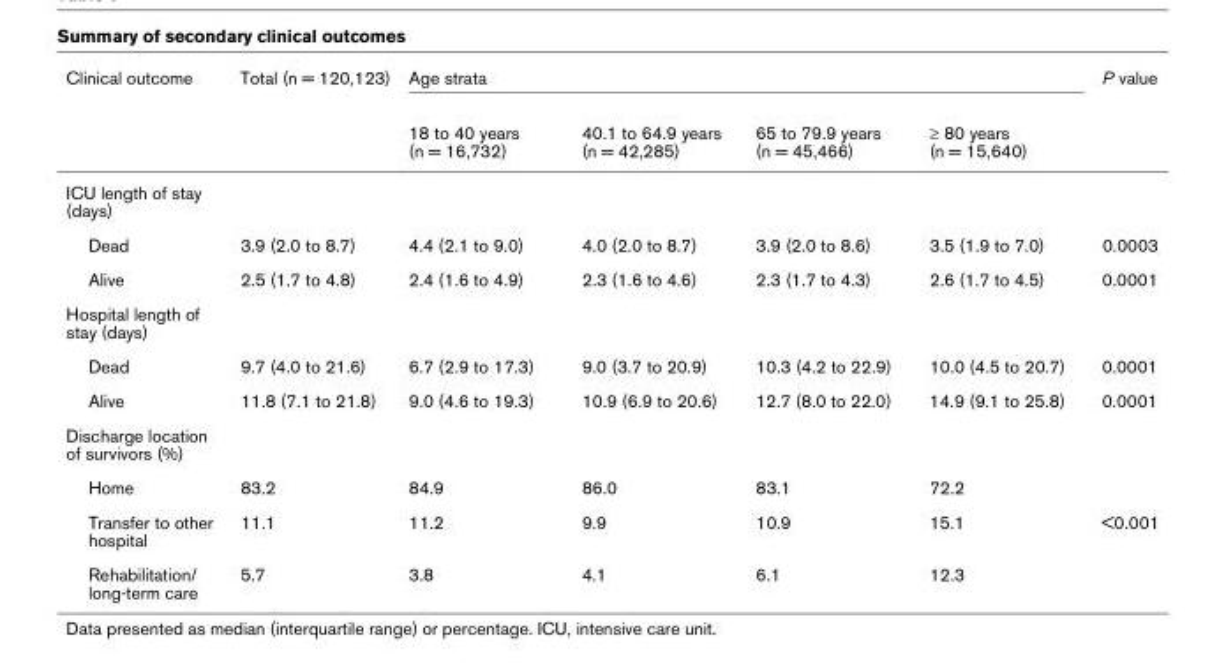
<table><thead><tr><td rowspan="2">Clinical outcome</td><td rowspan="2">Total (n = 120,123)</td><td colspan="4">Age strata</td><td rowspan="2">P value</td></tr><tr><td>18 to 40 years (n = 16,732)</td><td>40.1 to 64.9 years (n = 42,285)</td><td>65 to 79.9 years (n = 45,466)</td><td>≥ 80 years (n = 15,640)</td></tr></thead><tbody><tr><td colspan="7">ICU length of stay (days)</td></tr><tr><td>Dead</td><td>3.9 (2.0 to 8.7)</td><td>4.4 (2.1 to 9.0)</td><td>4.0 (2.0 to 8.7)</td><td>3.9 (2.0 to 8.6)</td><td>3.5 (1.9 to 7.0)</td><td>0.0003</td></tr><tr><td>Alive</td><td>2.5 (1.7 to 4.8)</td><td>2.4 (1.6 to 4.9)</td><td>2.3 (1.6 to 4.6)</td><td>2.3 (1.7 to 4.3)</td><td>2.6 (1.7 to 4.5)</td><td>0.0001</td></tr><tr><td colspan="7">Hospital length of stay (days)</td></tr><tr><td>Dead</td><td>9.7 (4.0 to 21.6)</td><td>6.7 (2.9 to 17.3)</td><td>9.0 (3.7 to 20.9)</td><td>10.3 (4.2 to 22.9)</td><td>10.0 (4.5 to 20.7)</td><td>0.0001</td></tr><tr><td>Alive</td><td>11.8 (7.1 to 21.8)</td><td>9.0 (4.6 to 19.3)</td><td>10.9 (6.9 to 20.6)</td><td>12.7 (8.0 to 22.0)</td><td>14.9 (9.1 to 25.8)</td><td>0.0001</td></tr><tr><td colspan="7">Discharge location of survivors (%)</td></tr><tr><td>Home</td><td>83.2</td><td>84.9</td><td>86.0</td><td>83.1</td><td>72.2</td><td></td></tr><tr><td>Transfer to other hospital</td><td>11.1</td><td>11.2</td><td>9.9</td><td>10.9</td><td>15.1</td><td>&lt;0.001</td></tr><tr><td>Rehabilitation/ long-term care</td><td>5.7</td><td>3.8</td><td>4.1</td><td>6.1</td><td>12.3</td><td></td></tr></tbody></table>